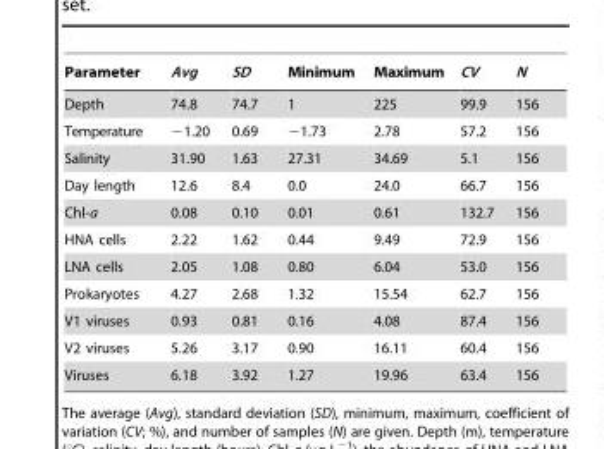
<table><thead><tr><td>Parameter</td><td>Avg</td><td>SD</td><td>Minimum</td><td>Maximum</td><td>CV</td><td>N</td></tr></thead><tbody><tr><td>Depth</td><td>74.8</td><td>74.7</td><td>1</td><td>225</td><td>99.9</td><td>156</td></tr><tr><td>Temperature</td><td>−1.20</td><td>0.69</td><td>−1.73</td><td>2.78</td><td>57.2</td><td>156</td></tr><tr><td>Salinity</td><td>31.90</td><td>1.63</td><td>27.31</td><td>34.69</td><td>5.1</td><td>156</td></tr><tr><td>Day length</td><td>12.6</td><td>8.4</td><td>0.0</td><td>24.0</td><td>66.7</td><td>156</td></tr><tr><td>Chl-a</td><td>0.08</td><td>0.10</td><td>0.01</td><td>0.61</td><td>132.7</td><td>156</td></tr><tr><td>HNA cells</td><td>2.22</td><td>1.62</td><td>0.44</td><td>9.49</td><td>72.9</td><td>156</td></tr><tr><td>LNA cells</td><td>2.05</td><td>1.08</td><td>0.80</td><td>6.04</td><td>53.0</td><td>156</td></tr><tr><td>Prokaryotes</td><td>4.27</td><td>2.68</td><td>1.32</td><td>15.54</td><td>62.7</td><td>156</td></tr><tr><td>V1 viruses</td><td>0.93</td><td>0.81</td><td>0.16</td><td>4.08</td><td>87.4</td><td>156</td></tr><tr><td>V2 viruses</td><td>5.26</td><td>3.17</td><td>0.90</td><td>16.11</td><td>60.4</td><td>156</td></tr><tr><td>Viruses</td><td>6.18</td><td>3.92</td><td>1.27</td><td>19.96</td><td>63.4</td><td>156</td></tr></tbody></table>